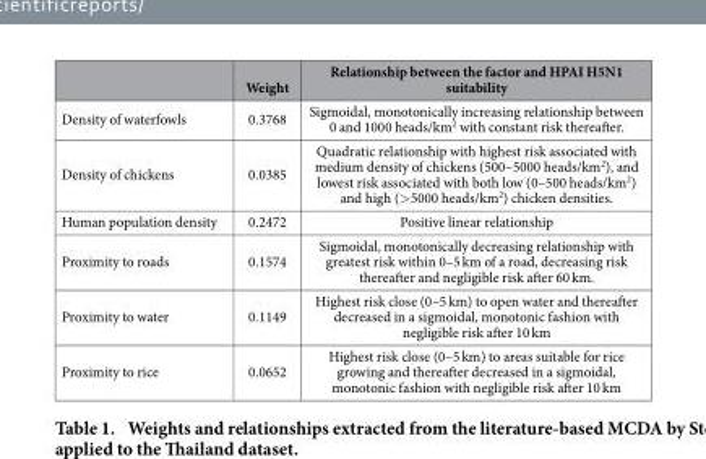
<table><thead><tr><td></td><td>Weight</td><td>Relationship between the factor and HPAI H5N1 suitability</td></tr></thead><tbody><tr><td>Density of waterfowls</td><td>0.3768</td><td>Sigmoidal, monotonically increasing relationship between 0 and 1000 heads/km<sup>2</sup> with constant risk thereafter.</td></tr><tr><td>Density of chickens</td><td>0.0385</td><td>Quadratic relationship with highest risk associated with medium density of chickens (500–5000 heads/km<sup>2</sup>), and lowest risk associated with both low (0–500 heads/km<sup>2</sup>) and high (&gt; 5000 heads/km<sup>2</sup>) chicken densities.</td></tr><tr><td>Human population density</td><td>0.2472</td><td>Positive linear relationship</td></tr><tr><td>Proximity to roads</td><td>0.1574</td><td>Sigmoidal, monotonically decreasing relationship with greatest risk within 0–5 km of a road, decreasing risk thereafter and negligible risk after 60 km.</td></tr><tr><td>Proximity to water</td><td>0.1149</td><td>Highest risk close (0–5 km) to open water and thereafter decreased in a sigmoidal, monotonic fashion with negligible risk after 10 km</td></tr><tr><td>Proximity to rice</td><td>0.0652</td><td>Highest risk close (0–5 km) to areas suitable for rice growing and thereafter decreased in a sigmoidal, monotonic fashion with negligible risk after 10 km</td></tr></tbody></table>